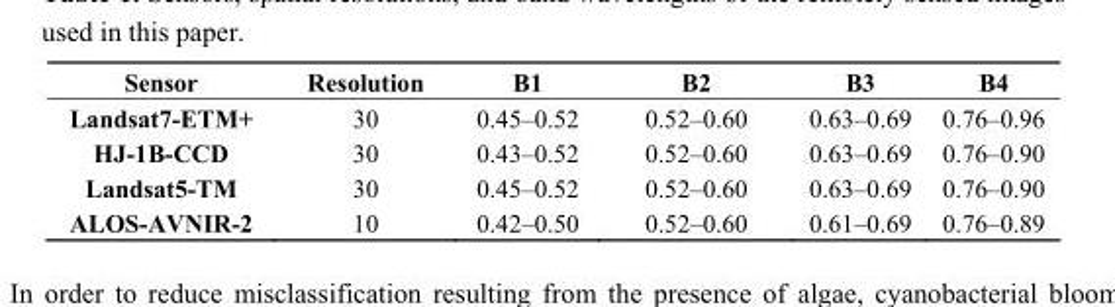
<table><thead><tr><td>Sensor</td><td>Resolution</td><td>B1</td><td>B2</td><td>B3</td><td>B4</td></tr></thead><tbody><tr><td>Landsat7-ETM+</td><td>30</td><td>0.45–0.52</td><td>0.52–0.60</td><td>0.63–0.69</td><td>0.76–0.96</td></tr><tr><td>HJ-1B-CCD</td><td>30</td><td>0.43–0.52</td><td>0.52–0.60</td><td>0.63–0.69</td><td>0.76–0.90</td></tr><tr><td>Landsat5-TM</td><td>30</td><td>0.45–0.52</td><td>0.52–0.60</td><td>0.63–0.69</td><td>0.76–0.90</td></tr><tr><td>ALOS-AVNIR-2</td><td>10</td><td>0.42–0.50</td><td>0.52–0.60</td><td>0.61–0.69</td><td>0.76–0.89</td></tr></tbody></table>